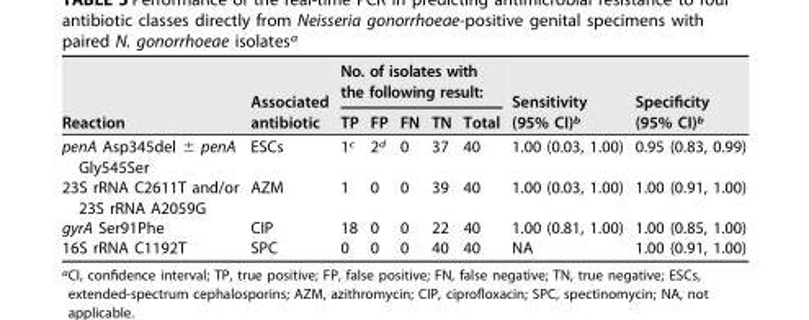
<table><thead><tr><td rowspan="2">Reaction</td><td rowspan="2">Associated antibiotic</td><td colspan="5">No. of isolates with the following result:</td><td rowspan="2">Sensitivity (95% CI)<sup>b</sup></td><td rowspan="2">Specificity (95% CI)<sup>b</sup></td></tr><tr><td>TP</td><td>FP</td><td>FN</td><td>TN</td><td>Total</td></tr></thead><tbody><tr><td>penA Asp345del ± penA Gly545Ser</td><td>ESCs</td><td>1<sup>c</sup></td><td>2<sup>d</sup></td><td>0</td><td>37</td><td>40</td><td>1.00 (0.03, 1.00)</td><td>0.95 (0.83, 0.99)</td></tr><tr><td>23S rRNA C2611T and/or 23S rRNA A2059G</td><td>AZM</td><td>1</td><td>0</td><td>0</td><td>39</td><td>40</td><td>1.00 (0.03, 1.00)</td><td>1.00 (0.91, 1.00)</td></tr><tr><td>gyrA Ser91Phe</td><td>CIP</td><td>18</td><td>0</td><td>0</td><td>22</td><td>40</td><td>1.00 (0.81, 1.00)</td><td>1.00 (0.85, 1.00)</td></tr><tr><td>16S rRNA C1192T</td><td>SPC</td><td>0</td><td>0</td><td>0</td><td>40</td><td>40</td><td>NA</td><td>1.00 (0.91, 1.00)</td></tr></tbody></table>